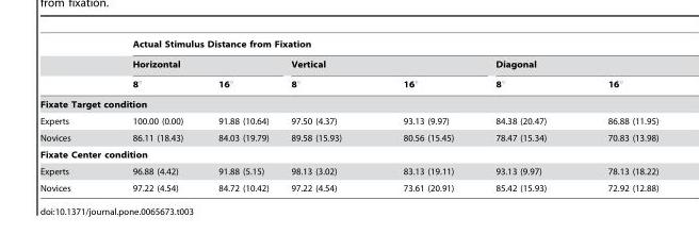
<table><thead><tr><td rowspan="3"></td><td colspan="6">Actual Stimulus Distance from Fixation</td></tr><tr><td colspan="2">Horizontal</td><td colspan="2">Vertical</td><td colspan="2">Diagonal</td></tr><tr><td>8°</td><td>16°</td><td>8°</td><td>16°</td><td>8°</td><td>16°</td></tr></thead><tbody><tr><td colspan="7">Fixate Target condition</td></tr><tr><td>Experts</td><td>100.00 (0.00)</td><td>91.88 (10.64)</td><td>97.50 (4.37)</td><td>93.13 (9.97)</td><td>84.38 (20.47)</td><td>86.88 (11.95)</td></tr><tr><td>Novices</td><td>86.11 (18.43)</td><td>84.03 (19.79)</td><td>89.58 (15.93)</td><td>80.56 (15.45)</td><td>78.47 (15.34)</td><td>70.83 (13.98)</td></tr><tr><td colspan="7">Fixate Center condition</td></tr><tr><td>Experts</td><td>96.88 (4.42)</td><td>91.88 (5.15)</td><td>98.13 (3.02)</td><td>83.13 (19.11)</td><td>93.13 (9.97)</td><td>78.13 (18.22)</td></tr><tr><td>Novices</td><td>97.22 (4.54)</td><td>84.72 (10.42)</td><td>97.22 (4.54)</td><td>73.61 (20.91)</td><td>85.42 (15.93)</td><td>72.92 (12.88)</td></tr></tbody></table>